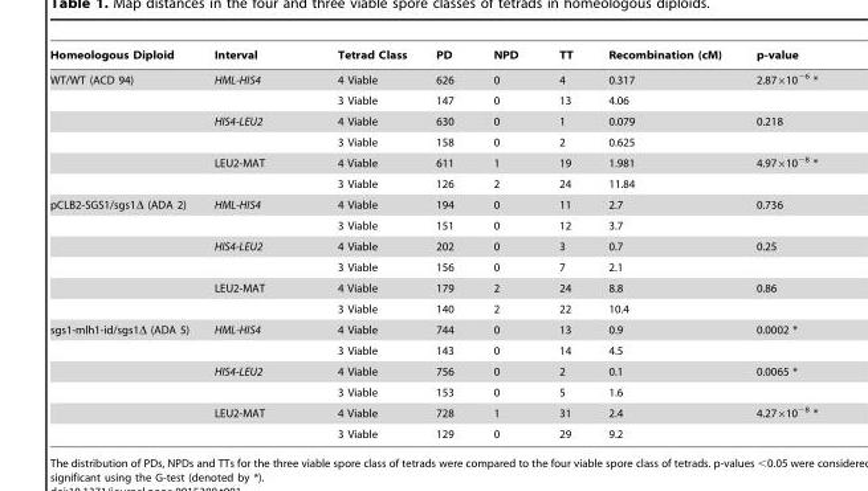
<table><thead><tr><td>Homeologous Diploid</td><td>Interval</td><td>Tetrad Class</td><td>PD</td><td>NPD</td><td>TT</td><td>Recombination (cM)</td><td>p-value</td></tr></thead><tbody><tr><td rowspan="6">WT/WT (ACD 94)</td><td>HML-HIS4</td><td>4 Viable</td><td>626</td><td>0</td><td>4</td><td>0.317</td><td>2.87×10<sup>−6</sup> *</td></tr><tr><td></td><td>3 Viable</td><td>147</td><td>0</td><td>13</td><td>4.06</td><td></td></tr><tr><td>HIS4-LEU2</td><td>4 Viable</td><td>630</td><td>0</td><td>1</td><td>0.079</td><td>0.218</td></tr><tr><td></td><td>3 Viable</td><td>158</td><td>0</td><td>2</td><td>0.625</td><td></td></tr><tr><td>LEU2-MAT</td><td>4 Viable</td><td>611</td><td>1</td><td>19</td><td>1.981</td><td>4.97×10<sup>−8</sup> *</td></tr><tr><td></td><td>3 Viable</td><td>126</td><td>2</td><td>24</td><td>11.84</td><td></td></tr><tr><td rowspan="6">pCLB2-SGS1/sgs1Δ (ADA 2)</td><td>HML-HIS4</td><td>4 Viable</td><td>194</td><td>0</td><td>11</td><td>2.7</td><td>0.736</td></tr><tr><td></td><td>3 Viable</td><td>151</td><td>0</td><td>12</td><td>3.7</td><td></td></tr><tr><td>HIS4-LEU2</td><td>4 Viable</td><td>202</td><td>0</td><td>3</td><td>0.7</td><td>0.25</td></tr><tr><td></td><td>3 Viable</td><td>156</td><td>0</td><td>7</td><td>2.1</td><td></td></tr><tr><td>LEU2-MAT</td><td>4 Viable</td><td>179</td><td>2</td><td>24</td><td>8.8</td><td>0.86</td></tr><tr><td></td><td>3 Viable</td><td>140</td><td>2</td><td>22</td><td>10.4</td><td></td></tr><tr><td rowspan="6">sgs1-mlh1-id/sgs1Δ (ADA 5)</td><td>HML-HIS4</td><td>4 Viable</td><td>744</td><td>0</td><td>13</td><td>0.9</td><td>0.0002 *</td></tr><tr><td></td><td>3 Viable</td><td>143</td><td>0</td><td>14</td><td>4.5</td><td></td></tr><tr><td>HIS4-LEU2</td><td>4 Viable</td><td>756</td><td>0</td><td>2</td><td>0.1</td><td>0.0065 *</td></tr><tr><td></td><td>3 Viable</td><td>153</td><td>0</td><td>5</td><td>1.6</td><td></td></tr><tr><td>LEU2-MAT</td><td>4 Viable</td><td>728</td><td>1</td><td>31</td><td>2.4</td><td>4.27×10<sup>−8</sup> *</td></tr><tr><td></td><td>3 Viable</td><td>129</td><td>0</td><td>29</td><td>9.2</td><td></td></tr></tbody></table>